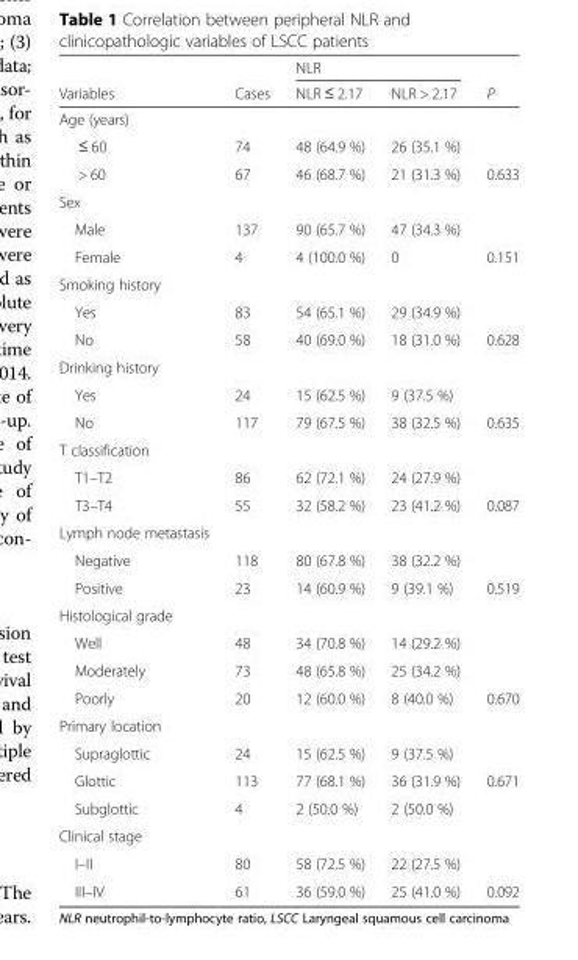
<table><thead><tr><td rowspan="2">Variables</td><td rowspan="2">Cases</td><td colspan="2">NLR</td><td rowspan="2">P</td></tr><tr><td>NLR ≤ 2.17</td><td>NLR &gt; 2.17</td></tr></thead><tbody><tr><td colspan="5">Age (years)</td></tr><tr><td>≤ 60</td><td>74</td><td>48 (64.9 %)</td><td>26 (35.1 %)</td><td></td></tr><tr><td>&gt; 60</td><td>67</td><td>46 (68.7 %)</td><td>21 (31.3 %)</td><td>0.633</td></tr><tr><td colspan="5">Sex</td></tr><tr><td>Male</td><td>137</td><td>90 (65.7 %)</td><td>47 (34.3 %)</td><td></td></tr><tr><td>Female</td><td>4</td><td>4 (100.0 %)</td><td>0</td><td>0.151</td></tr><tr><td colspan="5">Smoking history</td></tr><tr><td>Yes</td><td>83</td><td>54 (65.1 %)</td><td>29 (34.9 %)</td><td></td></tr><tr><td>No</td><td>58</td><td>40 (69.0 %)</td><td>18 (31.0 %)</td><td>0.628</td></tr><tr><td colspan="5">Drinking history</td></tr><tr><td>Yes</td><td>24</td><td>15 (62.5 %)</td><td>9 (37.5 %)</td><td></td></tr><tr><td>No</td><td>117</td><td>79 (67.5 %)</td><td>38 (32.5 %)</td><td>0.635</td></tr><tr><td colspan="5">T classification</td></tr><tr><td>T1–T2</td><td>86</td><td>62 (72.1 %)</td><td>24 (27.9 %)</td><td></td></tr><tr><td>T3–T4</td><td>55</td><td>32 (58.2 %)</td><td>23 (41.2 %)</td><td>0.087</td></tr><tr><td colspan="5">Lymph node metastasis</td></tr><tr><td>Negative</td><td>118</td><td>80 (67.8 %)</td><td>38 (32.2 %)</td><td></td></tr><tr><td>Positive</td><td>23</td><td>14 (60.9 %)</td><td>9 (39.1 %)</td><td>0.519</td></tr><tr><td colspan="5">Histological grade</td></tr><tr><td>Well</td><td>48</td><td>34 (70.8 %)</td><td>14 (29.2 %)</td><td></td></tr><tr><td>Moderately</td><td>73</td><td>48 (65.8 %)</td><td>25 (34.2 %)</td><td></td></tr><tr><td>Poorly</td><td>20</td><td>12 (60.0 %)</td><td>8 (40.0 %)</td><td>0.670</td></tr><tr><td colspan="5">Primary location</td></tr><tr><td>Supraglottic</td><td>24</td><td>15 (62.5 %)</td><td>9 (37.5 %)</td><td></td></tr><tr><td>Glottic</td><td>113</td><td>77 (68.1 %)</td><td>36 (31.9 %)</td><td>0.671</td></tr><tr><td>Subglottic</td><td>4</td><td>2 (50.0 %)</td><td>2 (50.0 %)</td><td></td></tr><tr><td colspan="5">Clinical stage</td></tr><tr><td>I–II</td><td>80</td><td>58 (72.5 %)</td><td>22 (27.5 %)</td><td></td></tr><tr><td>III–IV</td><td>61</td><td>36 (59.0 %)</td><td>25 (41.0 %)</td><td>0.092</td></tr></tbody></table>